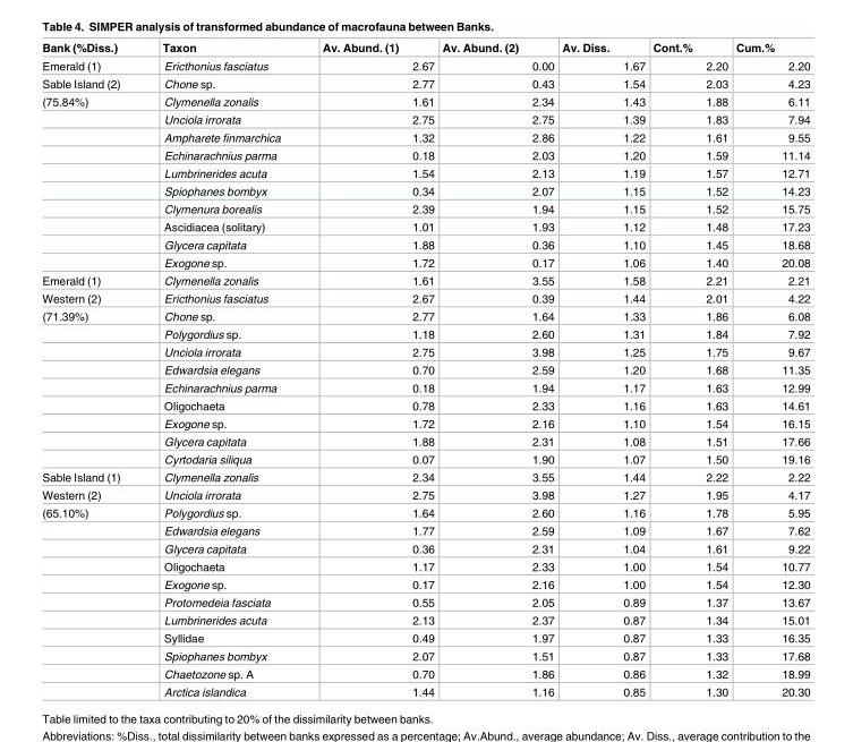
<table><thead><tr><td>Bank (%Diss.)</td><td>Taxon</td><td>Av. Abund. (1)</td><td>Av. Abund. (2)</td><td>Av. Diss.</td><td>Cont.%</td><td>Cum.%</td></tr></thead><tbody><tr><td>Emerald (1)</td><td>Ericthonius fasciatus</td><td>2.67</td><td>0.00</td><td>1.67</td><td>2.20</td><td>2.20</td></tr><tr><td>Sable Island (2)</td><td>Chone sp.</td><td>2.77</td><td>0.43</td><td>1.54</td><td>2.03</td><td>4.23</td></tr><tr><td rowspan="10">(75.84%)</td><td>Clymenella zonalis</td><td>1.61</td><td>2.34</td><td>1.43</td><td>1.88</td><td>6.11</td></tr><tr><td>Unciola irrorata</td><td>2.75</td><td>2.75</td><td>1.39</td><td>1.83</td><td>7.94</td></tr><tr><td>Ampharete finmarchica</td><td>1.32</td><td>2.86</td><td>1.22</td><td>1.61</td><td>9.55</td></tr><tr><td>Echinarachnius parma</td><td>0.18</td><td>2.03</td><td>1.20</td><td>1.59</td><td>11.14</td></tr><tr><td>Lumbrinerides acuta</td><td>1.54</td><td>2.13</td><td>1.19</td><td>1.57</td><td>12.71</td></tr><tr><td>Spiophanes bombyx</td><td>0.34</td><td>2.07</td><td>1.15</td><td>1.52</td><td>14.23</td></tr><tr><td>Clymenura borealis</td><td>2.39</td><td>1.94</td><td>1.15</td><td>1.52</td><td>15.75</td></tr><tr><td>Ascidiacea (solitary)</td><td>1.01</td><td>1.93</td><td>1.12</td><td>1.48</td><td>17.23</td></tr><tr><td>Glycera capitata</td><td>1.88</td><td>0.36</td><td>1.10</td><td>1.45</td><td>18.68</td></tr><tr><td>Exogone sp.</td><td>1.72</td><td>0.17</td><td>1.06</td><td>1.40</td><td>20.08</td></tr><tr><td>Emerald (1)</td><td>Clymenella zonalis</td><td>1.61</td><td>3.55</td><td>1.58</td><td>2.21</td><td>2.21</td></tr><tr><td>Western (2)</td><td>Ericthonius fasciatus</td><td>2.67</td><td>0.39</td><td>1.44</td><td>2.01</td><td>4.22</td></tr><tr><td rowspan="9">(71.39%)</td><td>Chone sp.</td><td>2.77</td><td>1.64</td><td>1.33</td><td>1.86</td><td>6.08</td></tr><tr><td>Polygordius sp.</td><td>1.18</td><td>2.60</td><td>1.31</td><td>1.84</td><td>7.92</td></tr><tr><td>Unciola irrorata</td><td>2.75</td><td>3.98</td><td>1.25</td><td>1.75</td><td>9.67</td></tr><tr><td>Edwardsia elegans</td><td>0.70</td><td>2.59</td><td>1.20</td><td>1.68</td><td>11.35</td></tr><tr><td>Echinarachnius parma</td><td>0.18</td><td>1.94</td><td>1.17</td><td>1.63</td><td>12.99</td></tr><tr><td>Oligochaeta</td><td>0.78</td><td>2.33</td><td>1.16</td><td>1.63</td><td>14.61</td></tr><tr><td>Exogone sp.</td><td>1.72</td><td>2.16</td><td>1.10</td><td>1.54</td><td>16.15</td></tr><tr><td>Glycera capitata</td><td>1.88</td><td>2.31</td><td>1.08</td><td>1.51</td><td>17.66</td></tr><tr><td>Cyrtodaria siliqua</td><td>0.07</td><td>1.90</td><td>1.07</td><td>1.50</td><td>19.16</td></tr><tr><td>Sable Island (1)</td><td>Clymenella zonalis</td><td>2.34</td><td>3.55</td><td>1.44</td><td>2.22</td><td>2.22</td></tr><tr><td>Western (2)</td><td>Unciola irrorata</td><td>2.75</td><td>3.98</td><td>1.27</td><td>1.95</td><td>4.17</td></tr><tr><td rowspan="11">(65.10%)</td><td>Polygordius sp.</td><td>1.64</td><td>2.60</td><td>1.16</td><td>1.78</td><td>5.95</td></tr><tr><td>Edwardsia elegans</td><td>1.77</td><td>2.59</td><td>1.09</td><td>1.67</td><td>7.62</td></tr><tr><td>Glycera capitata</td><td>0.36</td><td>2.31</td><td>1.04</td><td>1.61</td><td>9.22</td></tr><tr><td>Oligochaeta</td><td>1.17</td><td>2.33</td><td>1.00</td><td>1.54</td><td>10.77</td></tr><tr><td>Exogone sp.</td><td>0.17</td><td>2.16</td><td>1.00</td><td>1.54</td><td>12.30</td></tr><tr><td>Protomedeia fasciata</td><td>0.55</td><td>2.05</td><td>0.89</td><td>1.37</td><td>13.67</td></tr><tr><td>Lumbrinerides acuta</td><td>2.13</td><td>2.37</td><td>0.87</td><td>1.34</td><td>15.01</td></tr><tr><td>Syllidae</td><td>0.49</td><td>1.97</td><td>0.87</td><td>1.33</td><td>16.35</td></tr><tr><td>Spiophanes bombyx</td><td>2.07</td><td>1.51</td><td>0.87</td><td>1.33</td><td>17.68</td></tr><tr><td>Chaetozone sp. A</td><td>0.70</td><td>1.86</td><td>0.86</td><td>1.32</td><td>18.99</td></tr><tr><td>Arctica islandica</td><td>1.44</td><td>1.16</td><td>0.85</td><td>1.30</td><td>20.30</td></tr></tbody></table>